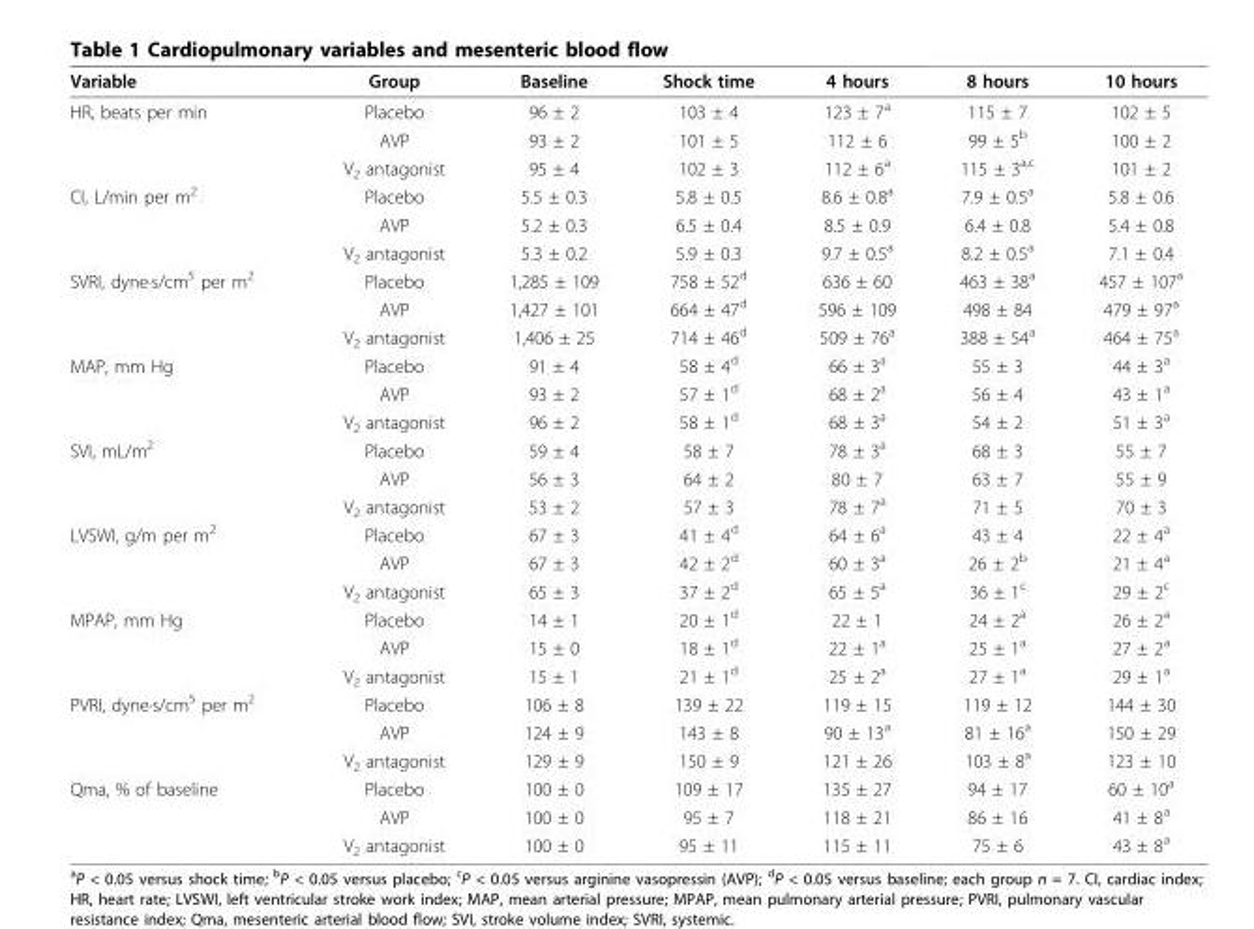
<table><thead><tr><td>Variable</td><td>Group</td><td>Baseline</td><td>Shock time</td><td>4 hours</td><td>8 hours</td><td>10 hours</td></tr></thead><tbody><tr><td rowspan="3">HR, beats per min</td><td>Placebo</td><td>96 ± 2</td><td>103 ± 4</td><td>123 ± 7<sup>a</sup></td><td>115 ± 7</td><td>102 ± 5</td></tr><tr><td>AVP</td><td>93 ± 2</td><td>101 ± 5</td><td>112 ± 6</td><td>99 ± 5<sup>b</sup></td><td>100 ± 2</td></tr><tr><td>V<sub>2</sub> antagonist</td><td>95 ± 4</td><td>102 ± 3</td><td>112 ± 6<sup>a</sup></td><td>115 ± 3<sup>a,c</sup></td><td>101 ± 2</td></tr><tr><td rowspan="3">CI, L/min per m<sup>2</sup></td><td>Placebo</td><td>5.5 ± 0.3</td><td>5.8 ± 0.5</td><td>8.6 ± 0.8<sup>a</sup></td><td>7.9 ± 0.5<sup>a</sup></td><td>5.8 ± 0.6</td></tr><tr><td>AVP</td><td>5.2 ± 0.3</td><td>6.5 ± 0.4</td><td>8.5 ± 0.9</td><td>6.4 ± 0.8</td><td>5.4 ± 0.8</td></tr><tr><td>V<sub>2</sub> antagonist</td><td>5.3 ± 0.2</td><td>5.9 ± 0.3</td><td>9.7 ± 0.5<sup>a</sup></td><td>8.2 ± 0.5<sup>a</sup></td><td>7.1 ± 0.4</td></tr><tr><td rowspan="3">SVRI, dyne·s/cm<sup>5</sup> per m<sup>2</sup></td><td>Placebo</td><td>1,285 ± 109</td><td>758 ± 52<sup>d</sup></td><td>636 ± 60</td><td>463 ± 38<sup>a</sup></td><td>457 ± 107<sup>a</sup></td></tr><tr><td>AVP</td><td>1,427 ± 101</td><td>664 ± 47<sup>d</sup></td><td>596 ± 109</td><td>498 ± 84</td><td>479 ± 97<sup>a</sup></td></tr><tr><td>V<sub>2</sub> antagonist</td><td>1,406 ± 25</td><td>714 ± 46<sup>d</sup></td><td>509 ± 76<sup>a</sup></td><td>388 ± 54<sup>a</sup></td><td>464 ± 75<sup>a</sup></td></tr><tr><td rowspan="3">MAP, mm Hg</td><td>Placebo</td><td>91 ± 4</td><td>58 ± 4<sup>d</sup></td><td>66 ± 3<sup>a</sup></td><td>55 ± 3</td><td>44 ± 3<sup>a</sup></td></tr><tr><td>AVP</td><td>93 ± 2</td><td>57 ± 1<sup>d</sup></td><td>68 ± 2<sup>a</sup></td><td>56 ± 4</td><td>43 ± 1<sup>a</sup></td></tr><tr><td>V<sub>2</sub> antagonist</td><td>96 ± 2</td><td>58 ± 1<sup>d</sup></td><td>68 ± 3<sup>a</sup></td><td>54 ± 2</td><td>51 ± 3<sup>a</sup></td></tr><tr><td rowspan="3">SVI, mL/m<sup>2</sup></td><td>Placebo</td><td>59 ± 4</td><td>58 ± 7</td><td>78 ± 3<sup>a</sup></td><td>68 ± 3</td><td>55 ± 7</td></tr><tr><td>AVP</td><td>56 ± 3</td><td>64 ± 2</td><td>80 ± 7</td><td>63 ± 7</td><td>55 ± 9</td></tr><tr><td>V<sub>2</sub> antagonist</td><td>53 ± 2</td><td>57 ± 3</td><td>78 ± 7<sup>a</sup></td><td>71 ± 5</td><td>70 ± 3</td></tr><tr><td rowspan="3">LVSWI, g/m per m<sup>2</sup></td><td>Placebo</td><td>67 ± 3</td><td>41 ± 4<sup>d</sup></td><td>64 ± 6<sup>a</sup></td><td>43 ± 4</td><td>22 ± 4<sup>a</sup></td></tr><tr><td>AVP</td><td>67 ± 3</td><td>42 ± 2<sup>d</sup></td><td>60 ± 3<sup>a</sup></td><td>26 ± 2<sup>b</sup></td><td>21 ± 4<sup>a</sup></td></tr><tr><td>V<sub>2</sub> antagonist</td><td>65 ± 3</td><td>37 ± 2<sup>d</sup></td><td>65 ± 5<sup>a</sup></td><td>36 ± 1<sup>c</sup></td><td>29 ± 2<sup>c</sup></td></tr><tr><td rowspan="3">MPAP, mm Hg</td><td>Placebo</td><td>14 ± 1</td><td>20 ± 1<sup>d</sup></td><td>22 ± 1</td><td>24 ± 2<sup>a</sup></td><td>26 ± 2<sup>a</sup></td></tr><tr><td>AVP</td><td>15 ± 0</td><td>18 ± 1<sup>d</sup></td><td>22 ± 1<sup>a</sup></td><td>25 ± 1<sup>a</sup></td><td>27 ± 2<sup>a</sup></td></tr><tr><td>V<sub>2</sub> antagonist</td><td>15 ± 1</td><td>21 ± 1<sup>d</sup></td><td>25 ± 2<sup>a</sup></td><td>27 ± 1<sup>a</sup></td><td>29 ± 1<sup>a</sup></td></tr><tr><td rowspan="3">PVRI, dyne·s/cm<sup>5</sup> per m<sup>2</sup></td><td>Placebo</td><td>106 ± 8</td><td>139 ± 22</td><td>119 ± 15</td><td>119 ± 12</td><td>144 ± 30</td></tr><tr><td>AVP</td><td>124 ± 9</td><td>143 ± 8</td><td>90 ± 13<sup>a</sup></td><td>81 ± 16<sup>a</sup></td><td>150 ± 29</td></tr><tr><td>V<sub>2</sub> antagonist</td><td>129 ± 9</td><td>150 ± 9</td><td>121 ± 26</td><td>103 ± 8<sup>a</sup></td><td>123 ± 10</td></tr><tr><td rowspan="3">Qma, % of baseline</td><td>Placebo</td><td>100 ± 0</td><td>109 ± 17</td><td>135 ± 27</td><td>94 ± 17</td><td>60 ± 10<sup>a</sup></td></tr><tr><td>AVP</td><td>100 ± 0</td><td>95 ± 7</td><td>118 ± 21</td><td>86 ± 16</td><td>41 ± 8<sup>a</sup></td></tr><tr><td>V<sub>2</sub> antagonist</td><td>100 ± 0</td><td>95 ± 11</td><td>115 ± 11</td><td>75 ± 6</td><td>43 ± 8<sup>a</sup></td></tr></tbody></table>